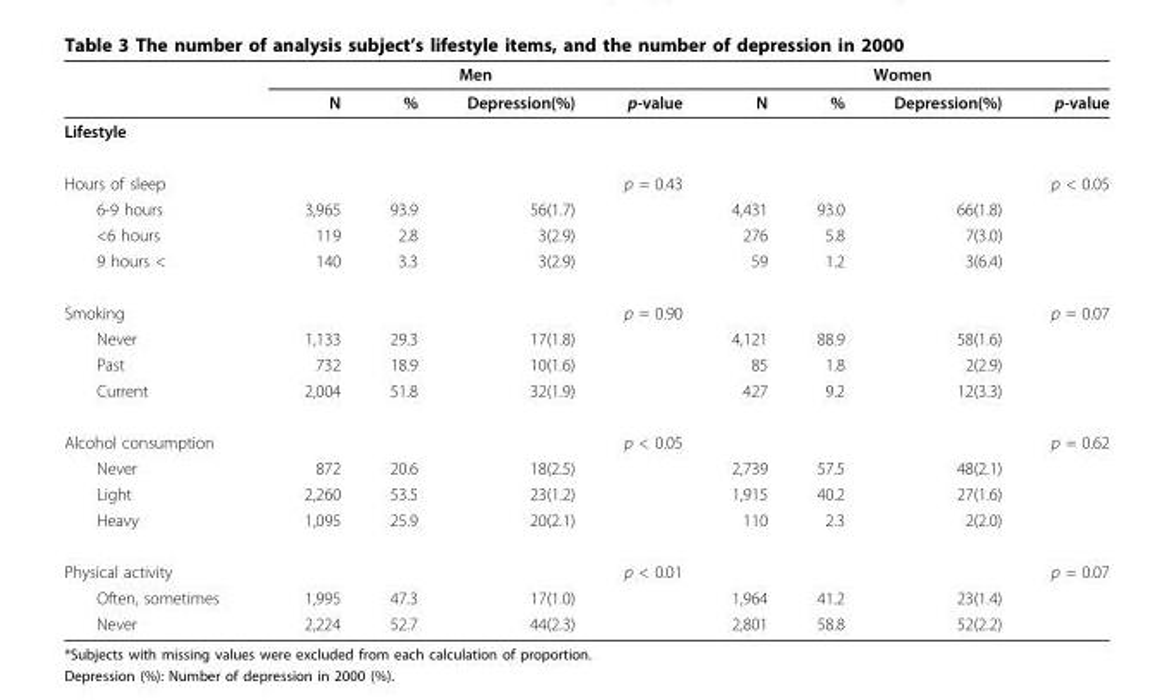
<table><thead><tr><td rowspan="2"></td><td colspan="4">Men</td><td colspan="4">Women</td></tr><tr><td>N</td><td>%</td><td>Depression(%)</td><td>p-value</td><td>N</td><td>%</td><td>Depression(%)</td><td>p-value</td></tr></thead><tbody><tr><td colspan="9">Lifestyle</td></tr><tr><td>Hours of sleep</td><td></td><td></td><td></td><td>p = 0.43</td><td></td><td></td><td></td><td>p &lt; 0.05</td></tr><tr><td>6-9 hours</td><td>3,965</td><td>93.9</td><td>56(1.7)</td><td></td><td>4,431</td><td>93.0</td><td>66(1.8)</td><td></td></tr><tr><td>&lt;6 hours</td><td>119</td><td>2.8</td><td>3(2.9)</td><td></td><td>276</td><td>5.8</td><td>7(3.0)</td><td></td></tr><tr><td>9 hours &lt;</td><td>140</td><td>3.3</td><td>3(2.9)</td><td></td><td>59</td><td>1.2</td><td>3(6.4)</td><td></td></tr><tr><td>Smoking</td><td></td><td></td><td></td><td>p = 0.90</td><td></td><td></td><td></td><td>p = 0.07</td></tr><tr><td>Never</td><td>1,133</td><td>29.3</td><td>17(1.8)</td><td></td><td>4,121</td><td>88.9</td><td>58(1.6)</td><td></td></tr><tr><td>Past</td><td>732</td><td>18.9</td><td>10(1.6)</td><td></td><td>85</td><td>1.8</td><td>2(2.9)</td><td></td></tr><tr><td>Current</td><td>2,004</td><td>51.8</td><td>32(1.9)</td><td></td><td>427</td><td>9.2</td><td>12(3.3)</td><td></td></tr><tr><td>Alcohol consumption</td><td></td><td></td><td></td><td>p &lt; 0.05</td><td></td><td></td><td></td><td>p = 0.62</td></tr><tr><td>Never</td><td>872</td><td>20.6</td><td>18(2.5)</td><td></td><td>2,739</td><td>57.5</td><td>48(2.1)</td><td></td></tr><tr><td>Light</td><td>2,260</td><td>53.5</td><td>23(1.2)</td><td></td><td>1,915</td><td>40.2</td><td>27(1.6)</td><td></td></tr><tr><td>Heavy</td><td>1,095</td><td>25.9</td><td>20(2.1)</td><td></td><td>110</td><td>2.3</td><td>2(2.0)</td><td></td></tr><tr><td>Physical activity</td><td></td><td></td><td></td><td>p &lt; 0.01</td><td></td><td></td><td></td><td>p = 0.07</td></tr><tr><td>Often, sometimes</td><td>1,995</td><td>47.3</td><td>17(1.0)</td><td></td><td>1,964</td><td>41.2</td><td>23(1.4)</td><td></td></tr><tr><td>Never</td><td>2,224</td><td>52.7</td><td>44(2.3)</td><td></td><td>2,801</td><td>58.8</td><td>52(2.2)</td><td></td></tr></tbody></table>